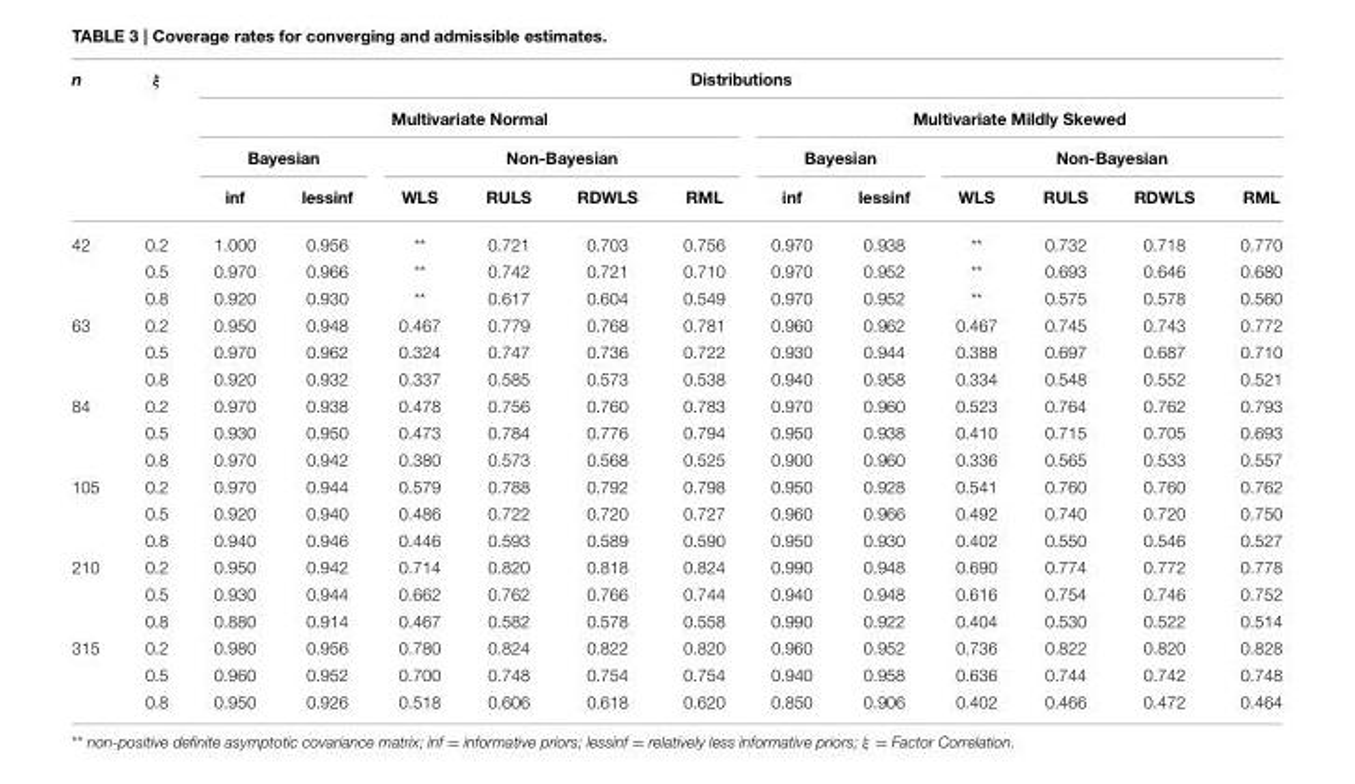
<table><thead><tr><td rowspan="4">n</td><td rowspan="4">ξ</td><td colspan="12">Distributions</td></tr><tr><td colspan="6">Multivariate Normal</td><td colspan="6">Multivariate Mildly Skewed</td></tr><tr><td colspan="2">Bayesian</td><td colspan="4">Non-Bayesian</td><td colspan="2">Bayesian</td><td colspan="4">Non-Bayesian</td></tr><tr><td>inf</td><td>lessinf</td><td>WLS</td><td>RULS</td><td>RDWLS</td><td>RML</td><td>inf</td><td>lessinf</td><td>WLS</td><td>RULS</td><td>RDWLS</td><td>RML</td></tr></thead><tbody><tr><td rowspan="3">42</td><td>0.2</td><td>1.000</td><td>0.956</td><td>**</td><td>0.721</td><td>0.703</td><td>0.756</td><td>0.970</td><td>0.938</td><td>**</td><td>0.732</td><td>0.718</td><td>0.770</td></tr><tr><td>0.5</td><td>0.970</td><td>0.966</td><td>**</td><td>0.742</td><td>0.721</td><td>0.710</td><td>0.970</td><td>0.952</td><td>**</td><td>0.693</td><td>0.646</td><td>0.680</td></tr><tr><td>0.8</td><td>0.920</td><td>0.930</td><td>**</td><td>0.617</td><td>0.604</td><td>0.549</td><td>0.970</td><td>0.952</td><td>**</td><td>0.575</td><td>0.578</td><td>0.560</td></tr><tr><td rowspan="3">63</td><td>0.2</td><td>0.950</td><td>0.948</td><td>0.467</td><td>0.779</td><td>0.768</td><td>0.781</td><td>0.960</td><td>0.962</td><td>0.467</td><td>0.745</td><td>0.743</td><td>0.772</td></tr><tr><td>0.5</td><td>0.970</td><td>0.962</td><td>0.324</td><td>0.747</td><td>0.736</td><td>0.722</td><td>0.930</td><td>0.944</td><td>0.388</td><td>0.697</td><td>0.687</td><td>0.710</td></tr><tr><td>0.8</td><td>0.920</td><td>0.932</td><td>0.337</td><td>0.585</td><td>0.573</td><td>0.538</td><td>0.940</td><td>0.958</td><td>0.334</td><td>0.548</td><td>0.552</td><td>0.521</td></tr><tr><td rowspan="3">84</td><td>0.2</td><td>0.970</td><td>0.938</td><td>0.478</td><td>0.756</td><td>0.760</td><td>0.783</td><td>0.970</td><td>0.960</td><td>0.523</td><td>0.764</td><td>0.762</td><td>0.793</td></tr><tr><td>0.5</td><td>0.930</td><td>0.950</td><td>0.473</td><td>0.784</td><td>0.776</td><td>0.794</td><td>0.950</td><td>0.938</td><td>0.410</td><td>0.715</td><td>0.705</td><td>0.693</td></tr><tr><td>0.8</td><td>0.970</td><td>0.942</td><td>0.380</td><td>0.573</td><td>0.568</td><td>0.525</td><td>0.900</td><td>0.960</td><td>0.336</td><td>0.565</td><td>0.533</td><td>0.557</td></tr><tr><td rowspan="3">105</td><td>0.2</td><td>0.970</td><td>0.944</td><td>0.579</td><td>0.788</td><td>0.792</td><td>0.798</td><td>0.950</td><td>0.928</td><td>0.541</td><td>0.760</td><td>0.760</td><td>0.762</td></tr><tr><td>0.5</td><td>0.920</td><td>0.940</td><td>0.486</td><td>0.722</td><td>0.720</td><td>0.727</td><td>0.960</td><td>0.966</td><td>0.492</td><td>0.740</td><td>0.720</td><td>0.750</td></tr><tr><td>0.8</td><td>0.940</td><td>0.946</td><td>0.446</td><td>0.593</td><td>0.589</td><td>0.590</td><td>0.950</td><td>0.930</td><td>0.402</td><td>0.550</td><td>0.546</td><td>0.527</td></tr><tr><td rowspan="3">210</td><td>0.2</td><td>0.950</td><td>0.942</td><td>0.714</td><td>0.820</td><td>0.818</td><td>0.824</td><td>0.990</td><td>0.948</td><td>0.690</td><td>0.774</td><td>0.772</td><td>0.778</td></tr><tr><td>0.5</td><td>0.930</td><td>0.944</td><td>0.662</td><td>0.762</td><td>0.766</td><td>0.744</td><td>0.940</td><td>0.948</td><td>0.616</td><td>0.754</td><td>0.746</td><td>0.752</td></tr><tr><td>0.8</td><td>0.880</td><td>0.914</td><td>0.467</td><td>0.582</td><td>0.578</td><td>0.558</td><td>0.990</td><td>0.922</td><td>0.404</td><td>0.530</td><td>0.522</td><td>0.514</td></tr><tr><td rowspan="3">315</td><td>0.2</td><td>0.980</td><td>0.956</td><td>0.780</td><td>0.824</td><td>0.822</td><td>0.820</td><td>0.960</td><td>0.952</td><td>0.736</td><td>0.822</td><td>0.820</td><td>0.828</td></tr><tr><td>0.5</td><td>0.960</td><td>0.952</td><td>0.700</td><td>0.748</td><td>0.754</td><td>0.754</td><td>0.940</td><td>0.958</td><td>0.636</td><td>0.744</td><td>0.742</td><td>0.748</td></tr><tr><td>0.8</td><td>0.950</td><td>0.926</td><td>0.518</td><td>0.606</td><td>0.618</td><td>0.620</td><td>0.850</td><td>0.906</td><td>0.402</td><td>0.466</td><td>0.472</td><td>0.464</td></tr></tbody></table>